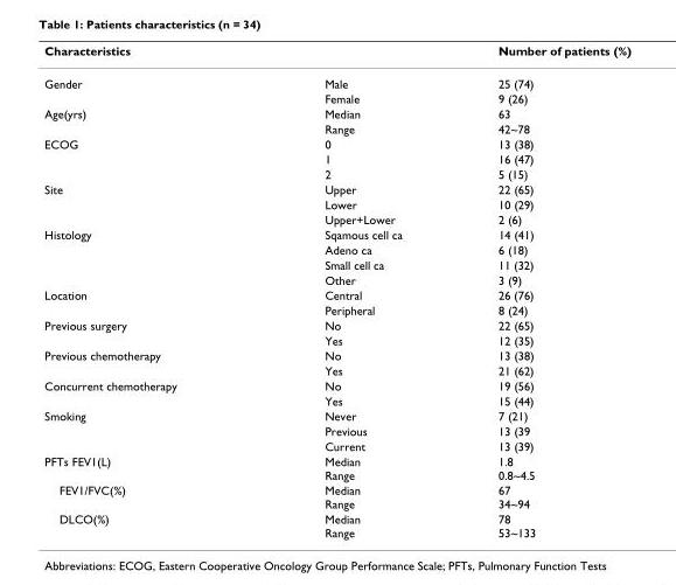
<table><thead><tr><td>Characteristics</td><td></td><td>Number of patients (%)</td></tr></thead><tbody><tr><td rowspan="2">Gender</td><td>Male</td><td>25 (74)</td></tr><tr><td>Female</td><td>9 (26)</td></tr><tr><td rowspan="2">Age(yrs)</td><td>Median</td><td>63</td></tr><tr><td>Range</td><td>42~78</td></tr><tr><td rowspan="3">ECOG</td><td>0</td><td>13 (38)</td></tr><tr><td>1</td><td>16 (47)</td></tr><tr><td>2</td><td>5 (15)</td></tr><tr><td rowspan="3">Site</td><td>Upper</td><td>22 (65)</td></tr><tr><td>Lower</td><td>10 (29)</td></tr><tr><td>Upper+Lower</td><td>2 (6)</td></tr><tr><td rowspan="4">Histology</td><td>Sqamous cell ca</td><td>14 (41)</td></tr><tr><td>Adeno ca</td><td>6 (18)</td></tr><tr><td>Small cell ca</td><td>11 (32)</td></tr><tr><td>Other</td><td>3 (9)</td></tr><tr><td rowspan="2">Location</td><td>Central</td><td>26 (76)</td></tr><tr><td>Peripheral</td><td>8 (24)</td></tr><tr><td rowspan="2">Previous surgery</td><td>No</td><td>22 (65)</td></tr><tr><td>Yes</td><td>12 (35)</td></tr><tr><td rowspan="2">Previous chemotherapy</td><td>No</td><td>13 (38)</td></tr><tr><td>Yes</td><td>21 (62)</td></tr><tr><td rowspan="2">Concurrent chemotherapy</td><td>No</td><td>19 (56)</td></tr><tr><td>Yes</td><td>15 (44)</td></tr><tr><td rowspan="3">Smoking</td><td>Never</td><td>7 (21)</td></tr><tr><td>Previous</td><td>13 (39</td></tr><tr><td>Current</td><td>13 (39)</td></tr><tr><td>PFTs FEV1(L)</td><td>Median Range</td><td>1.8 0.8~4.5</td></tr><tr><td>FEV1/FVC(%)</td><td>Median Range</td><td>67 34~94</td></tr><tr><td>DLCO(%)</td><td>Median Range</td><td>78 53~133</td></tr></tbody></table>